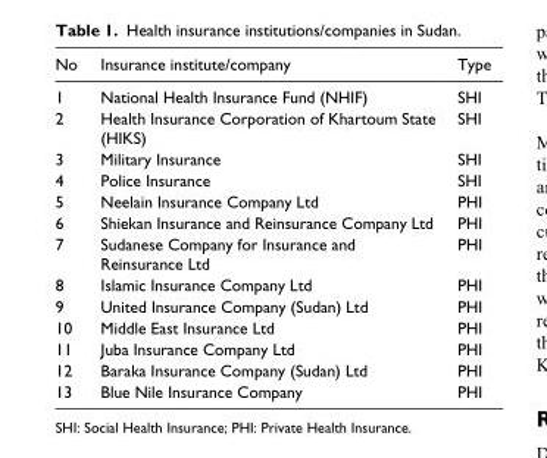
<table><thead><tr><td>No</td><td>Insurance institute/company</td><td>Type</td></tr></thead><tbody><tr><td>1</td><td>National Health Insurance Fund (NHIF)</td><td>SHI</td></tr><tr><td>2</td><td>Health Insurance Corporation of Khartoum State (HIKS)</td><td>SHI</td></tr><tr><td>3</td><td>Military Insurance</td><td>SHI</td></tr><tr><td>4</td><td>Police Insurance</td><td>SHI</td></tr><tr><td>5</td><td>Neelain Insurance Company Ltd</td><td>PHI</td></tr><tr><td>6</td><td>Shiekan Insurance and Reinsurance Company Ltd</td><td>PHI</td></tr><tr><td>7</td><td>Sudanese Company for Insurance and Reinsurance Ltd</td><td>PHI</td></tr><tr><td>8</td><td>Islamic Insurance Company Ltd</td><td>PHI</td></tr><tr><td>9</td><td>United Insurance Company (Sudan) Ltd</td><td>PHI</td></tr><tr><td>10</td><td>Middle East Insurance Ltd</td><td>PHI</td></tr><tr><td>11</td><td>Juba Insurance Company Ltd</td><td>PHI</td></tr><tr><td>12</td><td>Baraka Insurance Company (Sudan) Ltd</td><td>PHI</td></tr><tr><td>13</td><td>Blue Nile Insurance Company</td><td>PHI</td></tr></tbody></table>